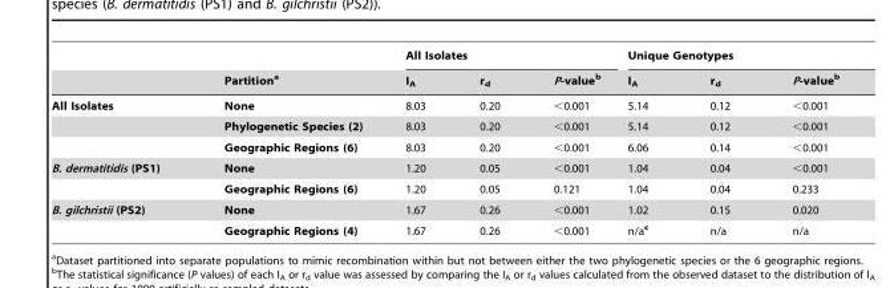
<table><thead><tr><td rowspan="2"></td><td rowspan="2">Partition<sup>a</sup></td><td colspan="3">All Isolates</td><td colspan="3">Unique Genotypes</td></tr><tr><td>I<sub>A</sub></td><td>r<sub>d</sub></td><td>P-value<sup>b</sup></td><td>I<sub>A</sub></td><td>r<sub>d</sub></td><td>P-value<sup>b</sup></td></tr></thead><tbody><tr><td rowspan="3">All Isolates</td><td>None</td><td>8.03</td><td>0.20</td><td>&lt;0.001</td><td>5.14</td><td>0.12</td><td>&lt;0.001</td></tr><tr><td>Phylogenetic Species (2)</td><td>8.03</td><td>0.20</td><td>&lt;0.001</td><td>5.14</td><td>0.12</td><td>&lt;0.001</td></tr><tr><td>Geographic Regions (6)</td><td>8.03</td><td>0.20</td><td>&lt;0.001</td><td>6.06</td><td>0.14</td><td>&lt;0.001</td></tr><tr><td rowspan="2">B. dermatitidis (PS1)</td><td>None</td><td>1.20</td><td>0.05</td><td>&lt;0.001</td><td>1.04</td><td>0.04</td><td>&lt;0.001</td></tr><tr><td>Geographic Regions (6)</td><td>1.20</td><td>0.05</td><td>0.121</td><td>1.04</td><td>0.04</td><td>0.233</td></tr><tr><td rowspan="2">B. gilchristii (PS2)</td><td>None</td><td>1.67</td><td>0.26</td><td>&lt;0.001</td><td>1.02</td><td>0.15</td><td>0.020</td></tr><tr><td>Geographic Regions (4)</td><td>1.67</td><td>0.26</td><td>&lt;0.001</td><td>n/a<sup>c</sup></td><td>n/a</td><td>n/a</td></tr></tbody></table>